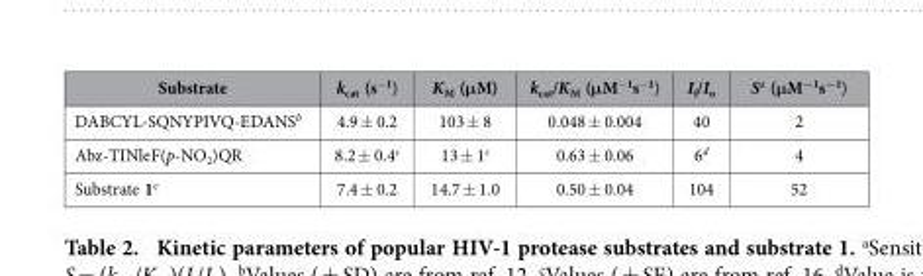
<table><thead><tr><td>Substrate</td><td>k<sub>cat</sub> (s<sup>−1</sup>)</td><td>K<sub>M</sub> (μM)</td><td>k<sub>cat</sub>/K<sub>M</sub> (μM<sup>−1</sup>s<sup>−1</sup>)</td><td>I<sub>f</sub>/I<sub>o</sub></td><td>S<sup>a</sup> (μM<sup>−1</sup>s<sup>−1</sup>)</td></tr></thead><tbody><tr><td>DABCYL-SQNYPIVQ-EDANS<sup>b</sup></td><td>4.9 ± 0.2</td><td>103 ± 8</td><td>0.048 ± 0.004</td><td>40</td><td>2</td></tr><tr><td>Abz-TINleF(p-NO<sub>2</sub>)QR</td><td>8.2 ± 0.4<sup>c</sup></td><td>13 ± 1<sup>c</sup></td><td>0.63 ± 0.06</td><td>6<sup>d</sup></td><td>4</td></tr><tr><td>Substrate 1<sup>e</sup></td><td>7.4 ± 0.2</td><td>14.7 ± 1.0</td><td>0.50 ± 0.04</td><td>104</td><td>52</td></tr></tbody></table>